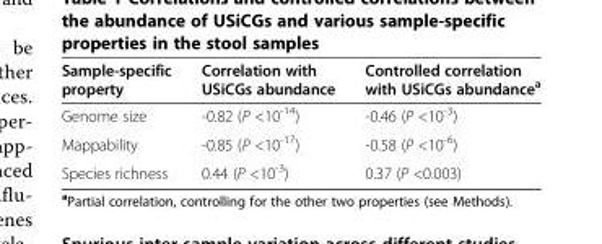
<table><thead><tr><td>Sample-specific property</td><td>Correlation with USiCGs abundance</td><td>Controlled correlation with USiCGs abundance<sup>a</sup></td></tr></thead><tbody><tr><td>Genome size</td><td>-0.82 (P &lt;10<sup>-14</sup>)</td><td>-0.46 (P &lt;10<sup>-3</sup>)</td></tr><tr><td>Mappability</td><td>-0.85 (P &lt;10<sup>-17</sup>)</td><td>-0.58 (P &lt;10<sup>-6</sup>)</td></tr><tr><td>Species richness</td><td>0.44 (P &lt;10<sup>-3</sup>)</td><td>0.37 (P &lt;0.003)</td></tr></tbody></table>